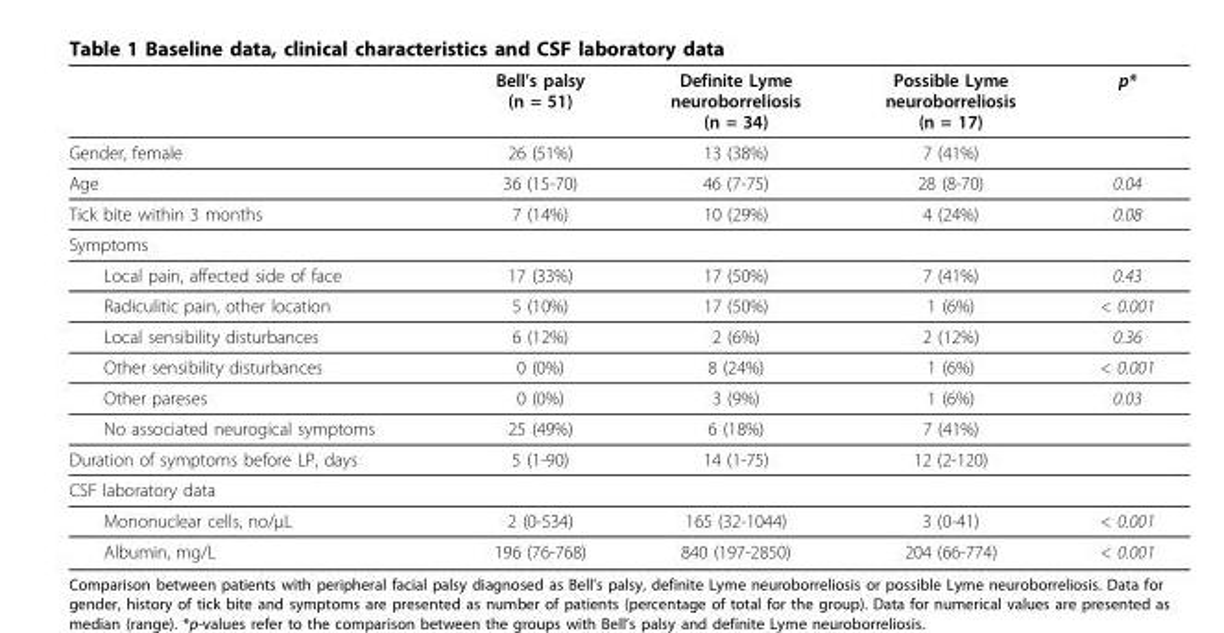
<table><thead><tr><td></td><td>Bell’s palsy (n = 51)</td><td>Definite Lyme neuroborreliosis (n = 34)</td><td>Possible Lyme neuroborreliosis (n = 17)</td><td>p*</td></tr></thead><tbody><tr><td>Gender, female</td><td>26 (51%)</td><td>13 (38%)</td><td>7 (41%)</td><td></td></tr><tr><td>Age</td><td>36 (15-70)</td><td>46 (7-75)</td><td>28 (8-70)</td><td>0.04</td></tr><tr><td>Tick bite within 3 months</td><td>7 (14%)</td><td>10 (29%)</td><td>4 (24%)</td><td>0.08</td></tr><tr><td colspan="5">Symptoms</td></tr><tr><td>Local pain, affected side of face</td><td>17 (33%)</td><td>17 (50%)</td><td>7 (41%)</td><td>0.43</td></tr><tr><td>Radiculitic pain, other location</td><td>5 (10%)</td><td>17 (50%)</td><td>1 (6%)</td><td>&lt; 0.001</td></tr><tr><td>Local sensibility disturbances</td><td>6 (12%)</td><td>2 (6%)</td><td>2 (12%)</td><td>0.36</td></tr><tr><td>Other sensibility disturbances</td><td>0 (0%)</td><td>8 (24%)</td><td>1 (6%)</td><td>&lt; 0.001</td></tr><tr><td>Other pareses</td><td>0 (0%)</td><td>3 (9%)</td><td>1 (6%)</td><td>0.03</td></tr><tr><td>No associated neurogical symptoms</td><td>25 (49%)</td><td>6 (18%)</td><td>7 (41%)</td><td></td></tr><tr><td>Duration of symptoms before LP, days</td><td>5 (1-90)</td><td>14 (1-75)</td><td>12 (2-120)</td><td></td></tr><tr><td colspan="5">CSF laboratory data</td></tr><tr><td>Mononuclear cells, no/μL</td><td>2 (0-534)</td><td>165 (32-1044)</td><td>3 (0-41)</td><td>&lt; 0.001</td></tr><tr><td>Albumin, mg/L</td><td>196 (76-768)</td><td>840 (197-2850)</td><td>204 (66-774)</td><td>&lt; 0.001</td></tr></tbody></table>